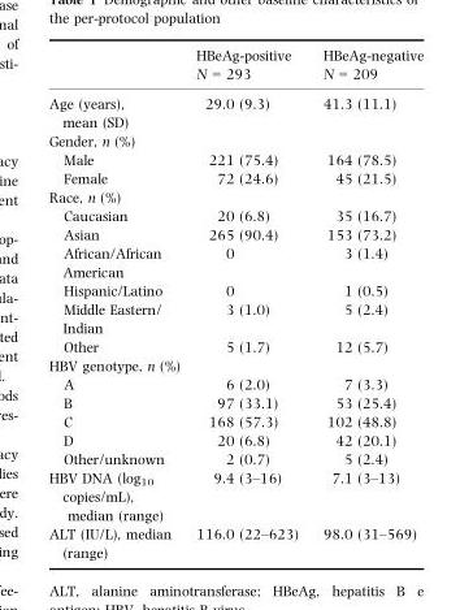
<table><thead><tr><td></td><td>HBeAg-positive N = 293</td><td>HBeAg-negative N = 209</td></tr></thead><tbody><tr><td>Age (years), mean (SD)</td><td>29.0 (9.3)</td><td>41.3 (11.1)</td></tr><tr><td colspan="3">Gender, n (%)</td></tr><tr><td>Male</td><td>221 (75.4)</td><td>164 (78.5)</td></tr><tr><td>Female</td><td>72 (24.6)</td><td>45 (21.5)</td></tr><tr><td colspan="3">Race, n (%)</td></tr><tr><td>Caucasian</td><td>20 (6.8)</td><td>35 (16.7)</td></tr><tr><td>Asian</td><td>265 (90.4)</td><td>153 (73.2)</td></tr><tr><td>African/African American</td><td>0</td><td>3 (1.4)</td></tr><tr><td>Hispanic/Latino</td><td>0</td><td>1 (0.5)</td></tr><tr><td>Middle Eastern/ Indian</td><td>3 (1.0)</td><td>5 (2.4)</td></tr><tr><td>Other</td><td>5 (1.7)</td><td>12 (5.7)</td></tr><tr><td colspan="3">HBV genotype, n (%)</td></tr><tr><td>A</td><td>6 (2.0)</td><td>7 (3.3)</td></tr><tr><td>B</td><td>97 (33.1)</td><td>53 (25.4)</td></tr><tr><td>C</td><td>168 (57.3)</td><td>102 (48.8)</td></tr><tr><td>D</td><td>20 (6.8)</td><td>42 (20.1)</td></tr><tr><td>Other/unknown</td><td>2 (0.7)</td><td>5 (2.4)</td></tr><tr><td>HBV DNA (log<sub>10</sub> copies/mL), median (range)</td><td>9.4 (3–16)</td><td>7.1 (3–13)</td></tr><tr><td>ALT (IU/L), median (range)</td><td>116.0 (22–623)</td><td>98.0 (31–569)</td></tr></tbody></table>